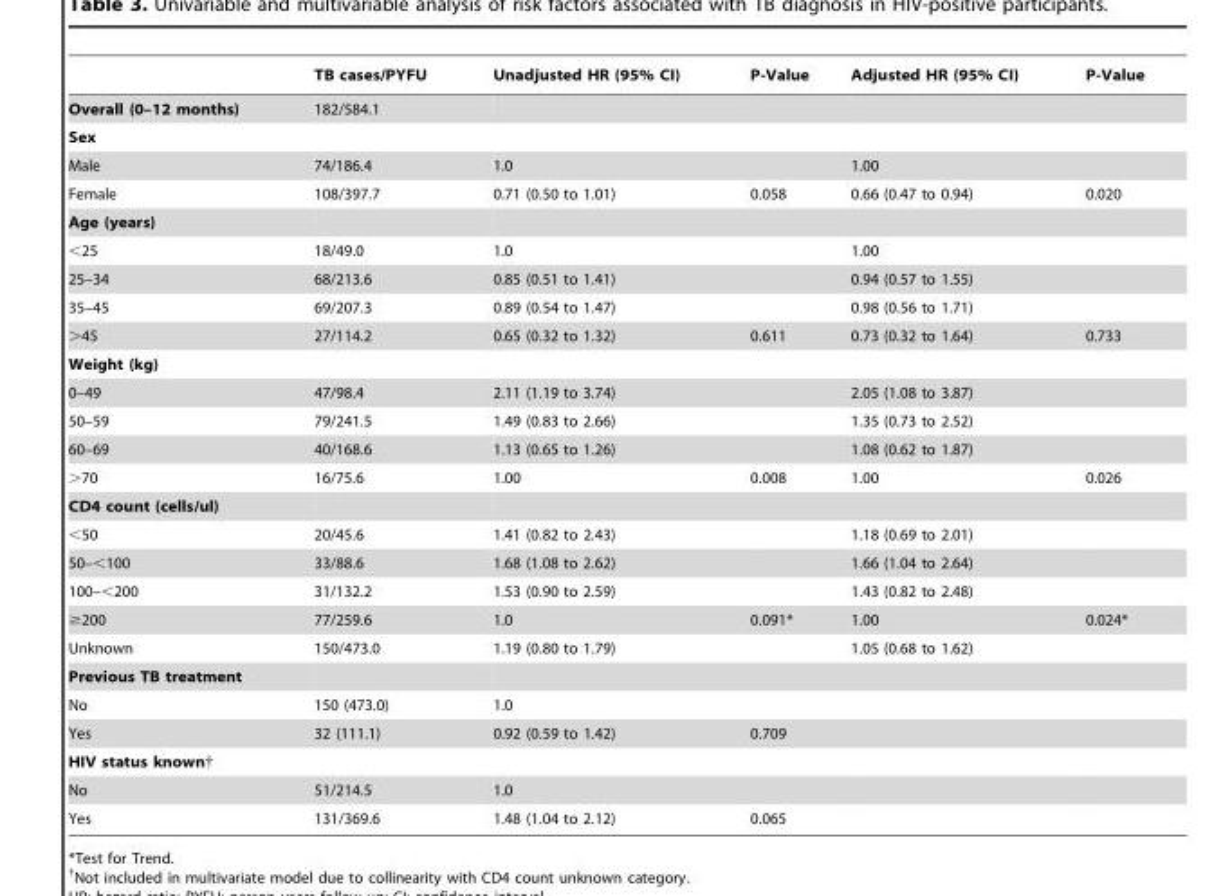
<table><thead><tr><td></td><td>TB cases/PYFU</td><td>Unadjusted HR (95% CI)</td><td>P-Value</td><td>Adjusted HR (95% CI)</td><td>P-Value</td></tr></thead><tbody><tr><td>Overall (0–12 months)</td><td>182/584.1</td><td></td><td></td><td></td><td></td></tr><tr><td colspan="6">Sex</td></tr><tr><td>Male</td><td>74/186.4</td><td>1.0</td><td></td><td>1.00</td><td></td></tr><tr><td>Female</td><td>108/397.7</td><td>0.71 (0.50 to 1.01)</td><td>0.058</td><td>0.66 (0.47 to 0.94)</td><td>0.020</td></tr><tr><td colspan="6">Age (years)</td></tr><tr><td>&lt;25</td><td>18/49.0</td><td>1.0</td><td></td><td>1.00</td><td></td></tr><tr><td>25–34</td><td>68/213.6</td><td>0.85 (0.51 to 1.41)</td><td></td><td>0.94 (0.57 to 1.55)</td><td></td></tr><tr><td>35–45</td><td>69/207.3</td><td>0.89 (0.54 to 1.47)</td><td></td><td>0.98 (0.56 to 1.71)</td><td></td></tr><tr><td>&gt;45</td><td>27/114.2</td><td>0.65 (0.32 to 1.32)</td><td>0.611</td><td>0.73 (0.32 to 1.64)</td><td>0.733</td></tr><tr><td colspan="6">Weight (kg)</td></tr><tr><td>0–49</td><td>47/98.4</td><td>2.11 (1.19 to 3.74)</td><td></td><td>2.05 (1.08 to 3.87)</td><td></td></tr><tr><td>50–59</td><td>79/241.5</td><td>1.49 (0.83 to 2.66)</td><td></td><td>1.35 (0.73 to 2.52)</td><td></td></tr><tr><td>60–69</td><td>40/168.6</td><td>1.13 (0.65 to 1.26)</td><td></td><td>1.08 (0.62 to 1.87)</td><td></td></tr><tr><td>&gt;70</td><td>16/75.6</td><td>1.00</td><td>0.008</td><td>1.00</td><td>0.026</td></tr><tr><td colspan="6">CD4 count (cells/ul)</td></tr><tr><td>&lt;50</td><td>20/45.6</td><td>1.41 (0.82 to 2.43)</td><td></td><td>1.18 (0.69 to 2.01)</td><td></td></tr><tr><td>50–&lt;100</td><td>33/88.6</td><td>1.68 (1.08 to 2.62)</td><td></td><td>1.66 (1.04 to 2.64)</td><td></td></tr><tr><td>100–&lt;200</td><td>31/132.2</td><td>1.53 (0.90 to 2.59)</td><td></td><td>1.43 (0.82 to 2.48)</td><td></td></tr><tr><td>≥200</td><td>77/259.6</td><td>1.0</td><td>0.091*</td><td>1.00</td><td>0.024*</td></tr><tr><td>Unknown</td><td>150/473.0</td><td>1.19 (0.80 to 1.79)</td><td></td><td>1.05 (0.68 to 1.62)</td><td></td></tr><tr><td colspan="6">Previous TB treatment</td></tr><tr><td>No</td><td>150 (473.0)</td><td>1.0</td><td></td><td></td><td></td></tr><tr><td>Yes</td><td>32 (111.1)</td><td>0.92 (0.59 to 1.42)</td><td>0.709</td><td></td><td></td></tr><tr><td colspan="6">HIV status known†</td></tr><tr><td>No</td><td>51/214.5</td><td>1.0</td><td></td><td></td><td></td></tr><tr><td>Yes</td><td>131/369.6</td><td>1.48 (1.04 to 2.12)</td><td>0.065</td><td></td><td></td></tr></tbody></table>